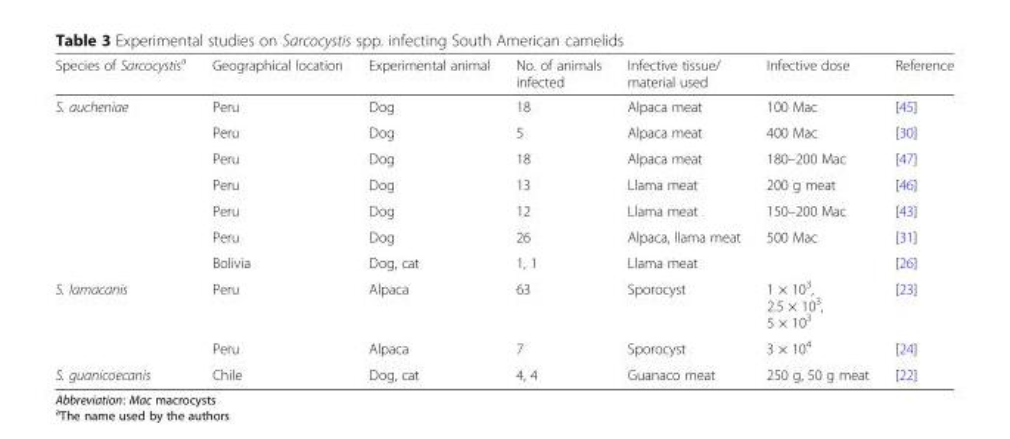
<table><thead><tr><td>Species of Sarcocystis<sup>a</sup></td><td>Geographical location</td><td>Experimental animal</td><td>No. of animals infected</td><td>Infective tissue/ material used</td><td>Infective dose</td><td>Reference</td></tr></thead><tbody><tr><td rowspan="7">S. aucheniae</td><td>Peru</td><td>Dog</td><td>18</td><td>Alpaca meat</td><td>100 Mac</td><td>[45]</td></tr><tr><td>Peru</td><td>Dog</td><td>5</td><td>Alpaca meat</td><td>400 Mac</td><td>[30]</td></tr><tr><td>Peru</td><td>Dog</td><td>18</td><td>Alpaca meat</td><td>180–200 Mac</td><td>[47]</td></tr><tr><td>Peru</td><td>Dog</td><td>13</td><td>Llama meat</td><td>200 g meat</td><td>[46]</td></tr><tr><td>Peru</td><td>Dog</td><td>12</td><td>Llama meat</td><td>150–200 Mac</td><td>[43]</td></tr><tr><td>Peru</td><td>Dog</td><td>26</td><td>Alpaca, llama meat</td><td>500 Mac</td><td>[31]</td></tr><tr><td>Bolivia</td><td>Dog, cat</td><td>1, 1</td><td>Llama meat</td><td></td><td>[26]</td></tr><tr><td rowspan="2">S. lamacanis</td><td>Peru</td><td>Alpaca</td><td>63</td><td>Sporocyst</td><td>1 × 10<sup>3</sup>, 2.5 × 10<sup>3</sup>, 5 × 10<sup>3</sup></td><td>[23]</td></tr><tr><td>Peru</td><td>Alpaca</td><td>7</td><td>Sporocyst</td><td>3 × 10<sup>4</sup></td><td>[24]</td></tr><tr><td>S. guanicoecanis</td><td>Chile</td><td>Dog, cat</td><td>4, 4</td><td>Guanaco meat</td><td>250 g, 50 g meat</td><td>[22]</td></tr></tbody></table>